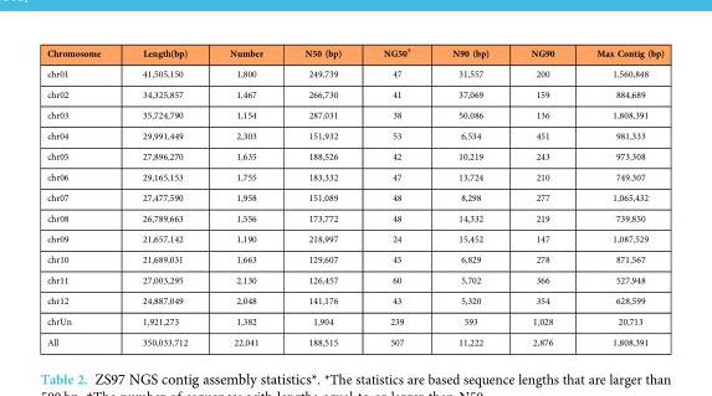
<table><thead><tr><td>Chromosome</td><td>Length(bp)</td><td>Number</td><td>N50 (bp)</td><td>NG50†</td><td>N90 (bp)</td><td>NG90</td><td>Max Contig (bp)</td></tr></thead><tbody><tr><td>chr01</td><td>41,505,150</td><td>1,800</td><td>249,739</td><td>47</td><td>31,557</td><td>200</td><td>1,560,848</td></tr><tr><td>chr02</td><td>34,325,857</td><td>1,467</td><td>266,730</td><td>41</td><td>37,069</td><td>159</td><td>884,689</td></tr><tr><td>chr03</td><td>35,724,790</td><td>1,154</td><td>287,031</td><td>38</td><td>50,086</td><td>136</td><td>1,808,391</td></tr><tr><td>chr04</td><td>29,991,449</td><td>2,303</td><td>151,932</td><td>53</td><td>6,534</td><td>451</td><td>981,333</td></tr><tr><td>chr05</td><td>27,896,270</td><td>1,635</td><td>188,526</td><td>42</td><td>10,219</td><td>243</td><td>973,308</td></tr><tr><td>chr06</td><td>29,165,153</td><td>1,755</td><td>183,332</td><td>47</td><td>13,724</td><td>210</td><td>749,307</td></tr><tr><td>chr07</td><td>27,477,590</td><td>1,958</td><td>151,089</td><td>48</td><td>8,298</td><td>277</td><td>1,065,432</td></tr><tr><td>chr08</td><td>26,789,663</td><td>1,556</td><td>173,772</td><td>48</td><td>14,332</td><td>219</td><td>739,850</td></tr><tr><td>chr09</td><td>21,657,142</td><td>1,190</td><td>218,997</td><td>24</td><td>15,452</td><td>147</td><td>1,087,529</td></tr><tr><td>chr10</td><td>21,689,031</td><td>1,663</td><td>129,607</td><td>45</td><td>6,829</td><td>278</td><td>871,567</td></tr><tr><td>chr11</td><td>27,003,295</td><td>2,130</td><td>126,457</td><td>60</td><td>5,702</td><td>366</td><td>527,948</td></tr><tr><td>chr12</td><td>24,887,049</td><td>2,048</td><td>141,176</td><td>43</td><td>5,320</td><td>354</td><td>628,599</td></tr><tr><td>chrUn</td><td>1,921,273</td><td>1,382</td><td>1,904</td><td>239</td><td>593</td><td>1,028</td><td>20,713</td></tr><tr><td>All</td><td>350,033,712</td><td>22,041</td><td>188,515</td><td>507</td><td>11,222</td><td>2,876</td><td>1,808,391</td></tr></tbody></table>